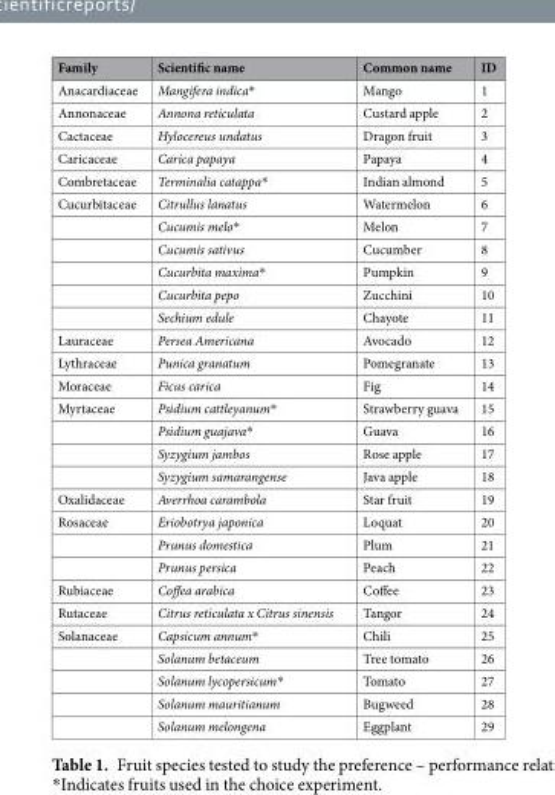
<table><thead><tr><td>Family</td><td>Scientific name</td><td>Common name</td><td>ID</td></tr></thead><tbody><tr><td>Anacardiaceae</td><td>Mangifera indica*</td><td>Mango</td><td>1</td></tr><tr><td>Annonaceae</td><td>Annona reticulata</td><td>Custard apple</td><td>2</td></tr><tr><td>Cactaceae</td><td>Hylocereus undatus</td><td>Dragon fruit</td><td>3</td></tr><tr><td>Caricaceae</td><td>Carica papaya</td><td>Papaya</td><td>4</td></tr><tr><td>Combretaceae</td><td>Terminalia catappa*</td><td>Indian almond</td><td>5</td></tr><tr><td rowspan="6">Cucurbitaceae</td><td>Citrullus lanatus</td><td>Watermelon</td><td>6</td></tr><tr><td>Cucumis melo*</td><td>Melon</td><td>7</td></tr><tr><td>Cucumis sativus</td><td>Cucumber</td><td>8</td></tr><tr><td>Cucurbita maxima*</td><td>Pumpkin</td><td>9</td></tr><tr><td>Cucurbita pepo</td><td>Zucchini</td><td>10</td></tr><tr><td>Sechium edule</td><td>Chayote</td><td>11</td></tr><tr><td>Lauraceae</td><td>Persea Americana</td><td>Avocado</td><td>12</td></tr><tr><td>Lythraceae</td><td>Punica granatum</td><td>Pomegranate</td><td>13</td></tr><tr><td>Moraceae</td><td>Ficus carica</td><td>Fig</td><td>14</td></tr><tr><td rowspan="4">Myrtaceae</td><td>Psidium cattleyanum*</td><td>Strawberry guava</td><td>15</td></tr><tr><td>Psidium guajava*</td><td>Guava</td><td>16</td></tr><tr><td>Syzygium jambos</td><td>Rose apple</td><td>17</td></tr><tr><td>Syzygium samarangense</td><td>Java apple</td><td>18</td></tr><tr><td>Oxalidaceae</td><td>Averrhoa carambola</td><td>Star fruit</td><td>19</td></tr><tr><td rowspan="3">Rosaceae</td><td>Eriobotrya japonica</td><td>Loquat</td><td>20</td></tr><tr><td>Prunus domestica</td><td>Plum</td><td>21</td></tr><tr><td>Prunus persica</td><td>Peach</td><td>22</td></tr><tr><td>Rubiaceae</td><td>Coffea arabica</td><td>Coffee</td><td>23</td></tr><tr><td>Rutaceae</td><td>Citrus reticulata x Citrus sinensis</td><td>Tangor</td><td>24</td></tr><tr><td rowspan="5">Solanaceae</td><td>Capsicum annum*</td><td>Chili</td><td>25</td></tr><tr><td>Solanum betaceum</td><td>Tree tomato</td><td>26</td></tr><tr><td>Solanum lycopersicum*</td><td>Tomato</td><td>27</td></tr><tr><td>Solanum mauritianum</td><td>Bugweed</td><td>28</td></tr><tr><td>Solanum melongena</td><td>Eggplant</td><td>29</td></tr></tbody></table>